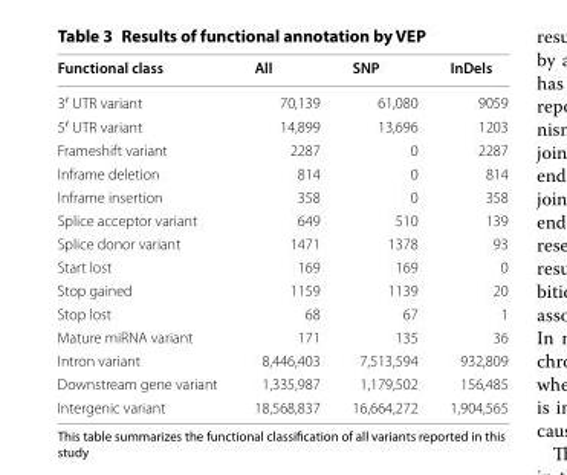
<table><thead><tr><td>Functional class</td><td>All</td><td>SNP</td><td>InDels</td></tr></thead><tbody><tr><td>3′ UTR variant</td><td>70,139</td><td>61,080</td><td>9059</td></tr><tr><td>5′ UTR variant</td><td>14,899</td><td>13,696</td><td>1203</td></tr><tr><td>Frameshift variant</td><td>2287</td><td>0</td><td>2287</td></tr><tr><td>Inframe deletion</td><td>814</td><td>0</td><td>814</td></tr><tr><td>Inframe insertion</td><td>358</td><td>0</td><td>358</td></tr><tr><td>Splice acceptor variant</td><td>649</td><td>510</td><td>139</td></tr><tr><td>Splice donor variant</td><td>1471</td><td>1378</td><td>93</td></tr><tr><td>Start lost</td><td>169</td><td>169</td><td>0</td></tr><tr><td>Stop gained</td><td>1159</td><td>1139</td><td>20</td></tr><tr><td>Stop lost</td><td>68</td><td>67</td><td>1</td></tr><tr><td>Mature miRNA variant</td><td>171</td><td>135</td><td>36</td></tr><tr><td>Intron variant</td><td>8,446,403</td><td>7,513,594</td><td>932,809</td></tr><tr><td>Downstream gene variant</td><td>1,335,987</td><td>1,179,502</td><td>156,485</td></tr><tr><td>Intergenic variant</td><td>18,568,837</td><td>16,664,272</td><td>1,904,565</td></tr></tbody></table>